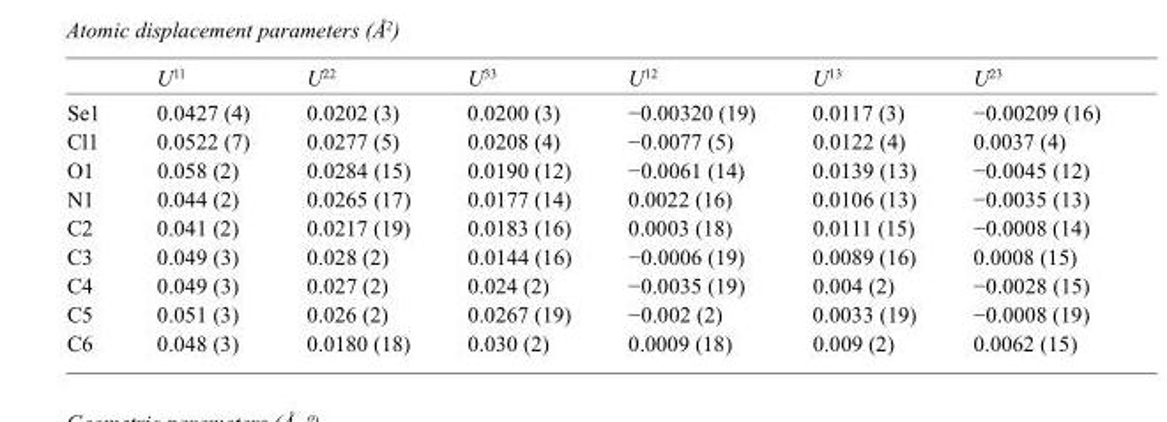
<table><thead><tr><td></td><td>U<sup>11</sup></td><td>U<sup>22</sup></td><td>U<sup>33</sup></td><td>U<sup>12</sup></td><td>U<sup>13</sup></td><td>U<sup>23</sup></td></tr></thead><tbody><tr><td>Se1</td><td>0.0427 (4)</td><td>0.0202 (3)</td><td>0.0200 (3)</td><td>−0.00320 (19)</td><td>0.0117 (3)</td><td>−0.00209 (16)</td></tr><tr><td>Cl1</td><td>0.0522 (7)</td><td>0.0277 (5)</td><td>0.0208 (4)</td><td>−0.0077 (5)</td><td>0.0122 (4)</td><td>0.0037 (4)</td></tr><tr><td>O1</td><td>0.058 (2)</td><td>0.0284 (15)</td><td>0.0190 (12)</td><td>−0.0061 (14)</td><td>0.0139 (13)</td><td>−0.0045 (12)</td></tr><tr><td>N1</td><td>0.044 (2)</td><td>0.0265 (17)</td><td>0.0177 (14)</td><td>0.0022 (16)</td><td>0.0106 (13)</td><td>−0.0035 (13)</td></tr><tr><td>C2</td><td>0.041 (2)</td><td>0.0217 (19)</td><td>0.0183 (16)</td><td>0.0003 (18)</td><td>0.0111 (15)</td><td>−0.0008 (14)</td></tr><tr><td>C3</td><td>0.049 (3)</td><td>0.028 (2)</td><td>0.0144 (16)</td><td>−0.0006 (19)</td><td>0.0089 (16)</td><td>0.0008 (15)</td></tr><tr><td>C4</td><td>0.049 (3)</td><td>0.027 (2)</td><td>0.024 (2)</td><td>−0.0035 (19)</td><td>0.004 (2)</td><td>−0.0028 (15)</td></tr><tr><td>C5</td><td>0.051 (3)</td><td>0.026 (2)</td><td>0.0267 (19)</td><td>−0.002 (2)</td><td>0.0033 (19)</td><td>−0.0008 (19)</td></tr><tr><td>C6</td><td>0.048 (3)</td><td>0.0180 (18)</td><td>0.030 (2)</td><td>0.0009 (18)</td><td>0.009 (2)</td><td>0.0062 (15)</td></tr></tbody></table>